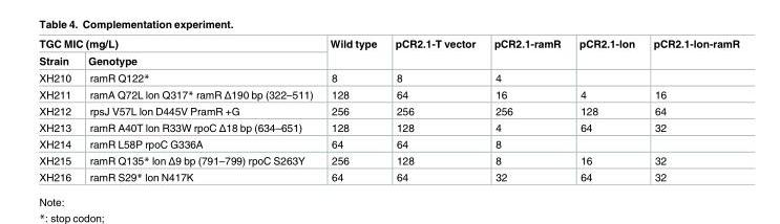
<table><thead><tr><td colspan="2">TGC MIC (mg/L)</td><td rowspan="2">Wild type</td><td rowspan="2">pCR2.1-T vector</td><td rowspan="2">pCR2.1-ramR</td><td rowspan="2">pCR2.1-lon</td><td rowspan="2">pCR2.1-lon-ramR</td></tr><tr><td>Strain</td><td>Genotype</td></tr></thead><tbody><tr><td>XH210</td><td>ramR Q122*</td><td>8</td><td>8</td><td>4</td><td></td><td></td></tr><tr><td>XH211</td><td>ramA Q72L lon Q317* ramR Δ190 bp (322–511)</td><td>128</td><td>64</td><td>16</td><td>4</td><td>16</td></tr><tr><td>XH212</td><td>rpsJ V57L lon D445V PramR +G</td><td>256</td><td>256</td><td>256</td><td>128</td><td>64</td></tr><tr><td>XH213</td><td>ramR A40T lon R33W rpoC Δ18 bp (634–651)</td><td>128</td><td>128</td><td>4</td><td>64</td><td>32</td></tr><tr><td>XH214</td><td>ramR L58P rpoC G336A</td><td>64</td><td>64</td><td>8</td><td></td><td></td></tr><tr><td>XH215</td><td>ramR Q135* lon Δ9 bp (791–799) rpoC S263Y</td><td>256</td><td>128</td><td>8</td><td>16</td><td>32</td></tr><tr><td>XH216</td><td>ramR S29* lon N417K</td><td>64</td><td>64</td><td>32</td><td>64</td><td>32</td></tr></tbody></table>